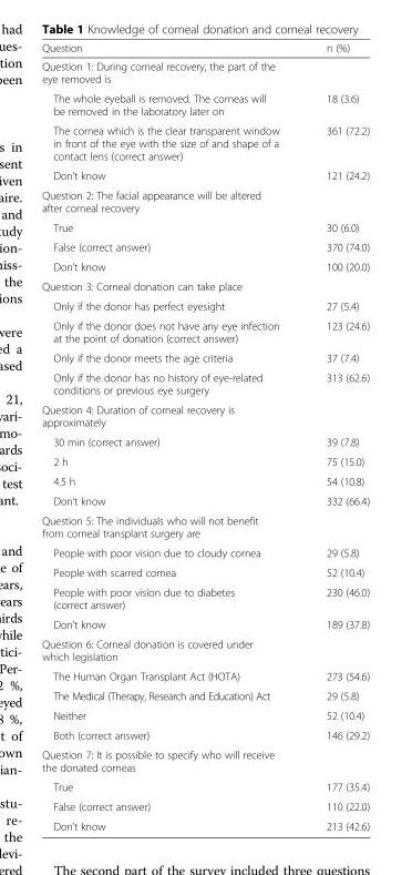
<table><thead><tr><td>Question</td><td>n (%)</td></tr></thead><tbody><tr><td colspan="2">Question 1: During corneal recovery, the part of the eye removed is</td></tr><tr><td>The whole eyeball is removed. The corneas will be removed in the laboratory later on</td><td>18 (3.6)</td></tr><tr><td>The cornea which is the clear transparent window in front of the eye with the size of and shape of a contact lens (correct answer)</td><td>361 (72.2)</td></tr><tr><td>Don’t know</td><td>121 (24.2)</td></tr><tr><td colspan="2">Question 2: The facial appearance will be altered after corneal recovery</td></tr><tr><td>True</td><td>30 (6.0)</td></tr><tr><td>False (correct answer)</td><td>370 (74.0)</td></tr><tr><td>Don’t know</td><td>100 (20.0)</td></tr><tr><td colspan="2">Question 3: Corneal donation can take place</td></tr><tr><td>Only if the donor has perfect eyesight</td><td>27 (5.4)</td></tr><tr><td>Only if the donor does not have any eye infection at the point of donation (correct answer)</td><td>123 (24.6)</td></tr><tr><td>Only if the donor meets the age criteria</td><td>37 (7.4)</td></tr><tr><td>Only if the donor has no history of eye-related conditions or previous eye surgery</td><td>313 (62.6)</td></tr><tr><td colspan="2">Question 4: Duration of corneal recovery is approximately</td></tr><tr><td>30 min (correct answer)</td><td>39 (7.8)</td></tr><tr><td>2 h</td><td>75 (15.0)</td></tr><tr><td>4.5 h</td><td>54 (10.8)</td></tr><tr><td>Don’t know</td><td>332 (66.4)</td></tr><tr><td colspan="2">Question 5: The individuals who will not benefit from corneal transplant surgery are</td></tr><tr><td>People with poor vision due to cloudy cornea</td><td>29 (5.8)</td></tr><tr><td>People with scarred cornea</td><td>52 (10.4)</td></tr><tr><td>People with poor vision due to diabetes (correct answer)</td><td>230 (46.0)</td></tr><tr><td>Don’t know</td><td>189 (37.8)</td></tr><tr><td colspan="2">Question 6: Corneal donation is covered under which legislation</td></tr><tr><td>The Human Organ Transplant Act (HOTA)</td><td>273 (54.6)</td></tr><tr><td>The Medical (Therapy, Research and Education) Act</td><td>29 (5.8)</td></tr><tr><td>Neither</td><td>52 (10.4)</td></tr><tr><td>Both (correct answer)</td><td>146 (29.2)</td></tr><tr><td colspan="2">Question 7: It is possible to specify who will receive the donated corneas</td></tr><tr><td>True</td><td>177 (35.4)</td></tr><tr><td>False (correct answer)</td><td>110 (22.0)</td></tr><tr><td>Don’t know</td><td>213 (42.6)</td></tr></tbody></table>